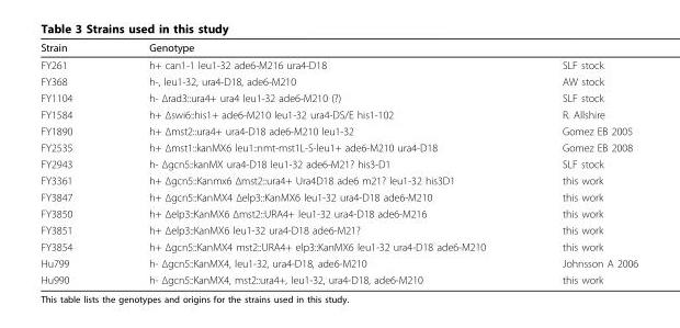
<table><thead><tr><td>Strain</td><td>Genotype</td><td></td></tr></thead><tbody><tr><td>FY261</td><td>h+ can1-1 leu1-32 ade6-M216 ura4-D18</td><td>SLF stock</td></tr><tr><td>FY368</td><td>h-, leu1-32, ura4-D18, ade6-M210</td><td>AW stock</td></tr><tr><td>FY1104</td><td>h- Δrad3::ura4+ ura4 leu1-32 ade6-M210 (?)</td><td>SLF stock</td></tr><tr><td>FY1584</td><td>h+ Δswi6::his1+ ade6-M210 leu1-32 ura4-DS/E his1-102</td><td>R. Allshire</td></tr><tr><td>FY1890</td><td>h+ Δmst2::ura4+ ura4-D18 ade6-M210 leu1-32</td><td>Gomez EB 2005</td></tr><tr><td>FY2535</td><td>h+ Δmst1::kanMX6 leu1::nmt-mst1L-S-leu1+ ade6-M210 ura4-D18</td><td>Gomez EB 2008</td></tr><tr><td>FY2943</td><td>h- Δgcn5::kanMX ura4-D18 leu1-32 ade6-M21? his3-D1</td><td>SLF stock</td></tr><tr><td>FY3361</td><td>h+ Δgcn5::Kanmx6 Δmst2::ura4+ Ura4D18 ade6 m21? leu1-32 his3D1</td><td>this work</td></tr><tr><td>FY3847</td><td>h+ Δgcn5::KanMX4 Δelp3::KanMX6 leu1-32 ura4-D18 ade6-M210</td><td>this work</td></tr><tr><td>FY3850</td><td>h+ Δelp3::KanMX6 Δmst2::URA4+ leu1-32 ura4-D18 ade6-M216</td><td>this work</td></tr><tr><td>FY3851</td><td>h+ Δelp3::KanMX6 leu1-32 ura4-D18 ade6-M21?</td><td>this work</td></tr><tr><td>FY3854</td><td>h+ Δgcn5::KanMX4 mst2::URA4+ elp3::KanMX6 leu1-32 ura4-D18 ade6-M210</td><td>this work</td></tr><tr><td>Hu799</td><td>h- Δgcn5::KanMX4, leu1-32, ura4-D18, ade6-M210</td><td>Johnsson A 2006</td></tr><tr><td>Hu990</td><td>h- Δgcn5::KanMX4, mst2::ura4+, leu1-32, ura4-D18, ade6-M210</td><td>this work</td></tr></tbody></table>